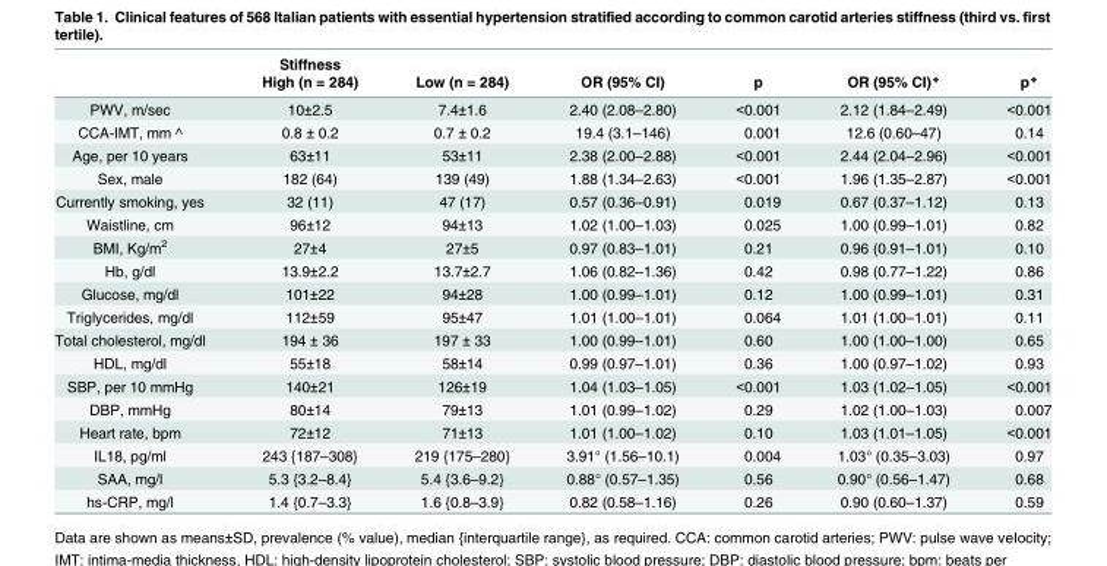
<table><thead><tr><td rowspan="2"></td><td rowspan="2">Stiffness High (n = 284)</td><td rowspan="2">Low (n = 284)</td><td rowspan="2">OR (95% CI)</td><td rowspan="2">p</td><td rowspan="2">OR (95% CI)*</td><td rowspan="2">p*</td></tr><tr></tr></thead><tbody><tr><td>PWV, m/sec</td><td>10±2.5</td><td>7.4±1.6</td><td>2.40 (2.08–2.80)</td><td>&lt;0.001</td><td>2.12 (1.84–2.49)</td><td>&lt;0.001</td></tr><tr><td>CCA-IMT, mm ^</td><td>0.8 ± 0.2</td><td>0.7 ± 0.2</td><td>19.4 (3.1–146)</td><td>0.001</td><td>12.6 (0.60–47)</td><td>0.14</td></tr><tr><td>Age, per 10 years</td><td>63±11</td><td>53±11</td><td>2.38 (2.00–2.88)</td><td>&lt;0.001</td><td>2.44 (2.04–2.96)</td><td>&lt;0.001</td></tr><tr><td>Sex, male</td><td>182 (64)</td><td>139 (49)</td><td>1.88 (1.34–2.63)</td><td>&lt;0.001</td><td>1.96 (1.35–2.87)</td><td>&lt;0.001</td></tr><tr><td>Currently smoking, yes</td><td>32 (11)</td><td>47 (17)</td><td>0.57 (0.36–0.91)</td><td>0.019</td><td>0.67 (0.37–1.12)</td><td>0.13</td></tr><tr><td>Waistline, cm</td><td>96±12</td><td>94±13</td><td>1.02 (1.00–1.03)</td><td>0.025</td><td>1.00 (0.99–1.01)</td><td>0.82</td></tr><tr><td>BMI, Kg/m<sup>2</sup></td><td>27±4</td><td>27±5</td><td>0.97 (0.83–1.01)</td><td>0.21</td><td>0.96 (0.91–1.01)</td><td>0.10</td></tr><tr><td>Hb, g/dl</td><td>13.9±2.2</td><td>13.7±2.7</td><td>1.06 (0.82–1.36)</td><td>0.42</td><td>0.98 (0.77–1.22)</td><td>0.86</td></tr><tr><td>Glucose, mg/dl</td><td>101±22</td><td>94±28</td><td>1.00 (0.99–1.01)</td><td>0.12</td><td>1.00 (0.99–1.01)</td><td>0.31</td></tr><tr><td>Triglycerides, mg/dl</td><td>112±59</td><td>95±47</td><td>1.01 (1.00–1.01)</td><td>0.064</td><td>1.01 (1.00–1.01)</td><td>0.11</td></tr><tr><td>Total cholesterol, mg/dl</td><td>194 ± 36</td><td>197 ± 33</td><td>1.00 (0.99–1.01)</td><td>0.60</td><td>1.00 (1.00–1.00)</td><td>0.65</td></tr><tr><td>HDL, mg/dl</td><td>55±18</td><td>58±14</td><td>0.99 (0.97–1.01)</td><td>0.36</td><td>1.00 (0.97–1.02)</td><td>0.93</td></tr><tr><td>SBP, per 10 mmHg</td><td>140±21</td><td>126±19</td><td>1.04 (1.03–1.05)</td><td>&lt;0.001</td><td>1.03 (1.02–1.05)</td><td>&lt;0.001</td></tr><tr><td>DBP, mmHg</td><td>80±14</td><td>79±13</td><td>1.01 (0.99–1.02)</td><td>0.29</td><td>1.02 (1.00–1.03)</td><td>0.007</td></tr><tr><td>Heart rate, bpm</td><td>72±12</td><td>71±13</td><td>1.01 (1.00–1.02)</td><td>0.10</td><td>1.03 (1.01–1.05)</td><td>&lt;0.001</td></tr><tr><td>IL18, pg/ml</td><td>243 {187–308}</td><td>219 {175–280}</td><td>3.91° (1.56–10.1)</td><td>0.004</td><td>1.03° (0.35–3.03)</td><td>0.97</td></tr><tr><td>SAA, mg/l</td><td>5.3 {3.2–8.4}</td><td>5.4 {3.6–9.2}</td><td>0.88° (0.57–1.35)</td><td>0.56</td><td>0.90° (0.56–1.47)</td><td>0.68</td></tr><tr><td>hs-CRP, mg/l</td><td>1.4 {0.7–3.3}</td><td>1.6 {0.8–3.9}</td><td>0.82 (0.58–1.16)</td><td>0.26</td><td>0.90 (0.60–1.37)</td><td>0.59</td></tr></tbody></table>